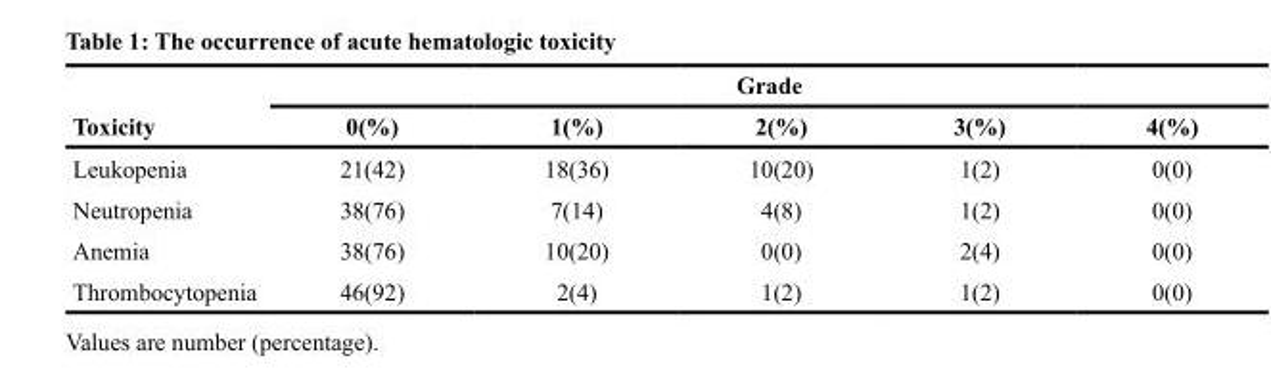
<table><thead><tr><td rowspan="2">Toxicity</td><td colspan="5">Grade</td></tr><tr><td>0(%)</td><td>1(%)</td><td>2(%)</td><td>3(%)</td><td>4(%)</td></tr></thead><tbody><tr><td>Leukopenia</td><td>21(42)</td><td>18(36)</td><td>10(20)</td><td>1(2)</td><td>0(0)</td></tr><tr><td>Neutropenia</td><td>38(76)</td><td>7(14)</td><td>4(8)</td><td>1(2)</td><td>0(0)</td></tr><tr><td>Anemia</td><td>38(76)</td><td>10(20)</td><td>0(0)</td><td>2(4)</td><td>0(0)</td></tr><tr><td>Thrombocytopenia</td><td>46(92)</td><td>2(4)</td><td>1(2)</td><td>1(2)</td><td>0(0)</td></tr></tbody></table>